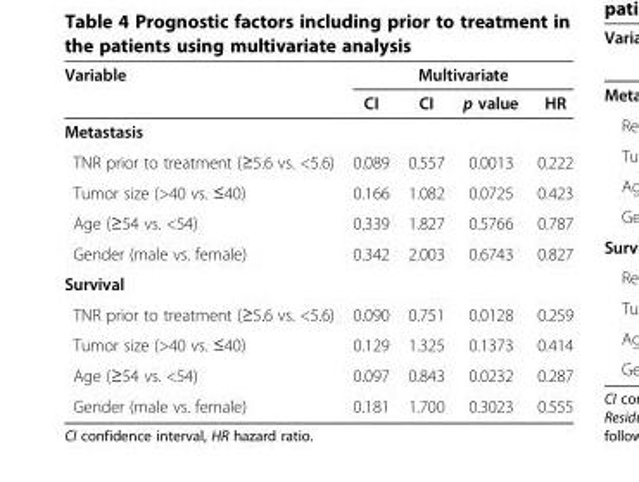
<table><thead><tr><td rowspan="2">Variable</td><td colspan="4">Multivariate</td></tr><tr><td>CI</td><td>CI</td><td>p value</td><td>HR</td></tr></thead><tbody><tr><td colspan="5">Metastasis</td></tr><tr><td>TNR prior to treatment (≥5.6 vs. &lt;5.6)</td><td>0.089</td><td>0.557</td><td>0.0013</td><td>0.222</td></tr><tr><td>Tumor size (&gt;40 vs. ≤40)</td><td>0.166</td><td>1.082</td><td>0.0725</td><td>0.423</td></tr><tr><td>Age (≥54 vs. &lt;54)</td><td>0.339</td><td>1.827</td><td>0.5766</td><td>0.787</td></tr><tr><td>Gender (male vs. female)</td><td>0.342</td><td>2.003</td><td>0.6743</td><td>0.827</td></tr><tr><td colspan="5">Survival</td></tr><tr><td>TNR prior to treatment (≥5.6 vs. &lt;5.6)</td><td>0.090</td><td>0.751</td><td>0.0128</td><td>0.259</td></tr><tr><td>Tumor size (&gt;40 vs. ≤40)</td><td>0.129</td><td>1.325</td><td>0.1373</td><td>0.414</td></tr><tr><td>Age (≥54 vs. &lt;54)</td><td>0.097</td><td>0.843</td><td>0.0232</td><td>0.287</td></tr><tr><td>Gender (male vs. female)</td><td>0.181</td><td>1.700</td><td>0.3023</td><td>0.555</td></tr></tbody></table>